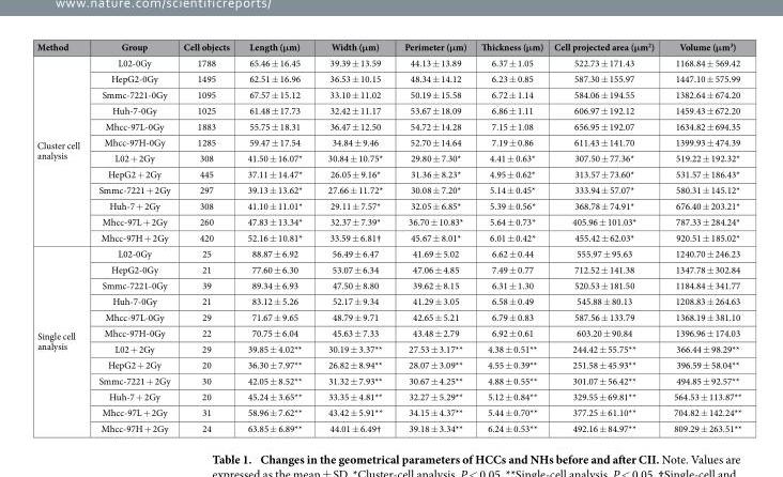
<table><thead><tr><td>Method</td><td>Group</td><td>Cell objects</td><td>Length (μm)</td><td>Width (μm)</td><td>Perimeter (μm)</td><td>Thickness (μm)</td><td>Cell projected area (μm<sup>2</sup>)</td><td>Volume (μm<sup>3</sup>)</td></tr></thead><tbody><tr><td rowspan="12">Cluster cell analysis</td><td>L02-0Gy</td><td>1788</td><td>65.46 ± 16.45</td><td>39.39 ± 13.59</td><td>44.13 ± 13.89</td><td>6.37 ± 1.05</td><td>522.73 ± 171.43</td><td>1168.84 ± 569.42</td></tr><tr><td>HepG2-0Gy</td><td>1495</td><td>62.51 ± 16.96</td><td>36.53 ± 10.15</td><td>48.34 ± 14.12</td><td>6.23 ± 0.85</td><td>587.30 ± 155.97</td><td>1447.10 ± 575.99</td></tr><tr><td>Smmc-7221-0Gy</td><td>1095</td><td>67.57 ± 15.12</td><td>33.10 ± 11.02</td><td>50.19 ± 15.58</td><td>6.72 ± 1.14</td><td>584.06 ± 194.55</td><td>1382.64 ± 674.20</td></tr><tr><td>Huh-7-0Gy</td><td>1025</td><td>61.48 ± 17.73</td><td>32.42 ± 11.17</td><td>53.67 ± 18.09</td><td>6.86 ± 1.11</td><td>606.97 ± 192.12</td><td>1459.43 ± 672.20</td></tr><tr><td>Mhcc-97L-0Gy</td><td>1883</td><td>55.75 ± 18.31</td><td>36.47 ± 12.50</td><td>54.72 ± 14.28</td><td>7.15 ± 1.08</td><td>656.95 ± 192.07</td><td>1634.82 ± 694.35</td></tr><tr><td>Mhcc-97H-0Gy</td><td>1285</td><td>59.47 ± 17.54</td><td>34.84 ± 9.46</td><td>52.70 ± 14.64</td><td>7.19 ± 0.86</td><td>611.43 ± 141.70</td><td>1399.93 ± 474.39</td></tr><tr><td>L02 + 2Gy</td><td>308</td><td>41.50 ± 16.07*</td><td>30.84 ± 10.75*</td><td>29.80 ± 7.30*</td><td>4.41 ± 0.63*</td><td>307.50 ± 77.36*</td><td>519.22 ± 192.32*</td></tr><tr><td>HepG2 + 2Gy</td><td>445</td><td>37.11 ± 14.47*</td><td>26.05 ± 9.16*</td><td>31.36 ± 8.23*</td><td>4.95 ± 0.62*</td><td>313.57 ± 73.60*</td><td>531.57 ± 186.43*</td></tr><tr><td>Smmc-7221 + 2Gy</td><td>297</td><td>39.13 ± 13.62*</td><td>27.66 ± 11.72*</td><td>30.08 ± 7.20*</td><td>5.14 ± 0.45*</td><td>333.94 ± 57.07*</td><td>580.31 ± 145.12*</td></tr><tr><td>Huh-7 + 2Gy</td><td>308</td><td>41.10 ± 11.01*</td><td>29.11 ± 7.57*</td><td>32.05 ± 6.85*</td><td>5.39 ± 0.56*</td><td>368.78 ± 74.91*</td><td>676.40 ± 203.21*</td></tr><tr><td>Mhcc-97L + 2Gy</td><td>260</td><td>47.83 ± 13.34*</td><td>32.37 ± 7.39*</td><td>36.70 ± 10.83*</td><td>5.64 ± 0.73*</td><td>405.96 ± 101.03*</td><td>787.33 ± 284.24*</td></tr><tr><td>Mhcc-97H + 2Gy</td><td>420</td><td>52.16 ± 10.81*</td><td>33.59 ± 6.81†</td><td>45.67 ± 8.01*</td><td>6.01 ± 0.42*</td><td>455.42 ± 62.03*</td><td>920.51 ± 185.02*</td></tr><tr><td rowspan="12">Single cell analysis</td><td>L02-0Gy</td><td>25</td><td>88.87 ± 6.92</td><td>56.49 ± 6.47</td><td>41.69 ± 5.02</td><td>6.62 ± 0.44</td><td>555.97 ± 95.63</td><td>1240.70 ± 246.23</td></tr><tr><td>HepG2-0Gy</td><td>21</td><td>77.60 ± 6.30</td><td>53.07 ± 6.34</td><td>47.06 ± 4.85</td><td>7.49 ± 0.77</td><td>712.52 ± 141.38</td><td>1347.78 ± 302.84</td></tr><tr><td>Smmc-7221-0Gy</td><td>39</td><td>89.34 ± 6.93</td><td>47.50 ± 8.80</td><td>39.62 ± 8.15</td><td>6.31 ± 1.30</td><td>520.53 ± 181.50</td><td>1184.84 ± 341.77</td></tr><tr><td>Huh-7-0Gy</td><td>21</td><td>83.12 ± 5.26</td><td>52.17 ± 9.34</td><td>41.29 ± 3.05</td><td>6.58 ± 0.49</td><td>545.88 ± 80.13</td><td>1208.83 ± 264.63</td></tr><tr><td>Mhcc-97L-0Gy</td><td>29</td><td>71.67 ± 9.65</td><td>48.79 ± 9.71</td><td>42.65 ± 5.21</td><td>6.79 ± 0.83</td><td>587.56 ± 133.79</td><td>1368.19 ± 381.10</td></tr><tr><td>Mhcc-97H-0Gy</td><td>22</td><td>70.75 ± 6.04</td><td>45.63 ± 7.33</td><td>43.48 ± 2.79</td><td>6.92 ± 0.61</td><td>603.20 ± 90.84</td><td>1396.96 ± 174.03</td></tr><tr><td>L02 + 2Gy</td><td>29</td><td>39.85 ± 4.02**</td><td>30.19 ± 3.37**</td><td>27.53 ± 3.17**</td><td>4.38 ± 0.51**</td><td>244.42 ± 55.75**</td><td>366.44 ± 98.29**</td></tr><tr><td>HepG2 + 2Gy</td><td>20</td><td>36.30 ± 7.97**</td><td>26.82 ± 8.94**</td><td>28.07 ± 3.09**</td><td>4.55 ± 0.39**</td><td>251.58 ± 45.93**</td><td>396.59 ± 58.04**</td></tr><tr><td>Smmc-7221 + 2Gy</td><td>30</td><td>42.05 ± 8.52**</td><td>31.32 ± 7.93**</td><td>30.67 ± 4.25**</td><td>4.88 ± 0.55**</td><td>301.07 ± 56.42**</td><td>494.85 ± 92.57**</td></tr><tr><td>Huh-7 + 2Gy</td><td>20</td><td>45.24 ± 3.65**</td><td>33.35 ± 4.81**</td><td>32.27 ± 5.29**</td><td>5.12 ± 0.84**</td><td>329.55 ± 69.81**</td><td>564.53 ± 113.87**</td></tr><tr><td>Mhcc-97L + 2Gy</td><td>31</td><td>58.96 ± 7.62**</td><td>43.42 ± 5.91**</td><td>34.15 ± 4.37**</td><td>5.44 ± 0.70**</td><td>377.25 ± 61.10**</td><td>704.82 ± 142.24**</td></tr><tr><td>Mhcc-97H + 2Gy</td><td>24</td><td>63.85 ± 6.89**</td><td>44.01 ± 6.49†</td><td>39.18 ± 3.34**</td><td>6.24 ± 0.53**</td><td>492.16 ± 84.97**</td><td>809.29 ± 263.51**</td></tr></tbody></table>